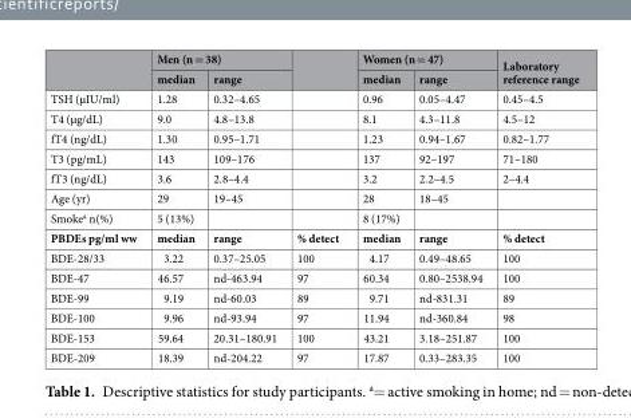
<table><thead><tr><td rowspan="2"></td><td colspan="2">Men (n = 38)</td><td rowspan="2"></td><td colspan="2">Women (n = 47)</td><td rowspan="2">Laboratory reference range</td></tr><tr><td>median</td><td>range</td><td>median</td><td>range</td></tr></thead><tbody><tr><td>TSH (µIU/ml)</td><td>1.28</td><td>0.32–4.65</td><td></td><td>0.96</td><td>0.05–4.47</td><td>0.45–4.5</td></tr><tr><td>T4 (µg/dL)</td><td>9.0</td><td>4.8–13.8</td><td></td><td>8.1</td><td>4.3–11.8</td><td>4.5–12</td></tr><tr><td>fT4 (ng/dL)</td><td>1.30</td><td>0.95–1.71</td><td></td><td>1.23</td><td>0.94–1.67</td><td>0.82–1.77</td></tr><tr><td>T3 (pg/mL)</td><td>143</td><td>109–176</td><td></td><td>137</td><td>92–197</td><td>71–180</td></tr><tr><td>fT3 (ng/dL)</td><td>3.6</td><td>2.8–4.4</td><td></td><td>3.2</td><td>2.2–4.5</td><td>2–4.4</td></tr><tr><td>Age (yr)</td><td>29</td><td>19–45</td><td></td><td>28</td><td>18–45</td><td></td></tr><tr><td>Smoke<sup>a</sup> n(%)</td><td>5 (13%)</td><td></td><td></td><td>8 (17%)</td><td></td><td></td></tr><tr><td>PBDEs pg/ml ww</td><td>median</td><td>range</td><td>% detect</td><td>median</td><td>range</td><td>% detect</td></tr><tr><td>BDE-28/33</td><td>3.22</td><td>0.37–25.05</td><td>100</td><td>4.17</td><td>0.49–48.65</td><td>100</td></tr><tr><td>BDE-47</td><td>46.57</td><td>nd-463.94</td><td>97</td><td>60.34</td><td>0.80–2538.94</td><td>100</td></tr><tr><td>BDE-99</td><td>9.19</td><td>nd-60.03</td><td>89</td><td>9.71</td><td>nd-831.31</td><td>89</td></tr><tr><td>BDE-100</td><td>9.96</td><td>nd-93.94</td><td>97</td><td>11.94</td><td>nd-360.84</td><td>98</td></tr><tr><td>BDE-153</td><td>59.64</td><td>20.31–180.91</td><td>100</td><td>43.21</td><td>3.18–251.87</td><td>100</td></tr><tr><td>BDE-209</td><td>18.39</td><td>nd-204.22</td><td>97</td><td>17.87</td><td>0.33–283.35</td><td>100</td></tr></tbody></table>